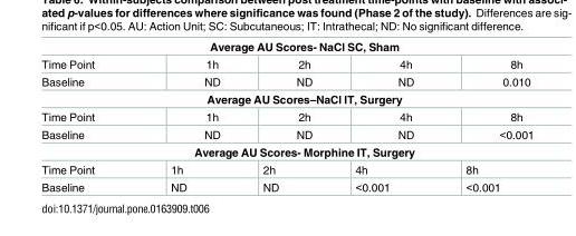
<table><tbody><tr><td colspan="5">Average AU Scores- NaCl SC, Sham</td></tr><tr><td>Time Point</td><td>1h</td><td>2h</td><td>4h</td><td>8h</td></tr><tr><td>Baseline</td><td>ND</td><td>ND</td><td>ND</td><td>0.010</td></tr><tr><td colspan="5">Average AU Scores–NaCl IT, Surgery</td></tr><tr><td>Time Point</td><td>1h</td><td>2h</td><td>4h</td><td>8h</td></tr><tr><td>Baseline</td><td>ND</td><td>ND</td><td>ND</td><td>&lt;0.001</td></tr><tr><td colspan="5">Average AU Scores- Morphine IT, Surgery</td></tr><tr><td>Time Point</td><td>1h</td><td>2h</td><td>4h</td><td>8h</td></tr><tr><td>Baseline</td><td>ND</td><td>ND</td><td>&lt;0.001</td><td>&lt;0.001</td></tr></tbody></table>